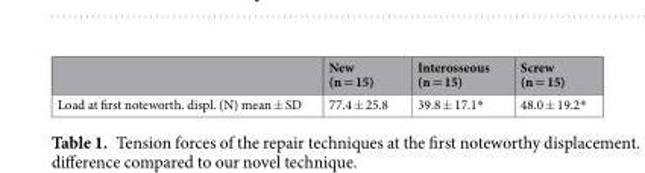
<table><thead><tr><td></td><td>New (n = 15)</td><td>Interosseous (n = 15)</td><td>Screw (n = 15)</td></tr></thead><tbody><tr><td>Load at first noteworth. displ. (N) mean ± SD</td><td>77.4 ± 25.8</td><td>39.8 ± 17.1*</td><td>48.0 ± 19.2*</td></tr></tbody></table>